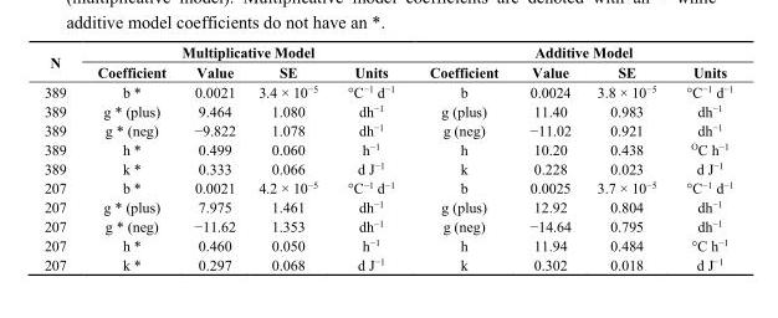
<table><thead><tr><td rowspan="2">N</td><td colspan="4">Multiplicative Model</td><td colspan="4">Additive Model</td></tr><tr><td>Coefficient</td><td>Value</td><td>SE</td><td>Units</td><td>Coefficient</td><td>Value</td><td>SE</td><td>Units</td></tr></thead><tbody><tr><td>389</td><td>b *</td><td>0.0021</td><td>3.4 × 10<sup>−5</sup></td><td>°C<sup>−1</sup> d<sup>−1</sup></td><td>b</td><td>0.0024</td><td>3.8 × 10<sup>−5</sup></td><td>°C<sup>−1</sup> d<sup>−1</sup></td></tr><tr><td>389</td><td>g * (plus)</td><td>9.464</td><td>1.080</td><td>dh<sup>−1</sup></td><td>g (plus)</td><td>11.40</td><td>0.983</td><td>dh<sup>−1</sup></td></tr><tr><td>389</td><td>g * (neg)</td><td>−9.822</td><td>1.078</td><td>dh<sup>−1</sup></td><td>g (neg)</td><td>−11.02</td><td>0.921</td><td>dh<sup>−1</sup></td></tr><tr><td>389</td><td>h *</td><td>0.499</td><td>0.060</td><td>h<sup>−1</sup></td><td>h</td><td>10.20</td><td>0.438</td><td><sup>O</sup>C h<sup>−1</sup></td></tr><tr><td>389</td><td>k *</td><td>0.333</td><td>0.066</td><td>d J<sup>−1</sup></td><td>k</td><td>0.228</td><td>0.023</td><td>d J<sup>−1</sup></td></tr><tr><td>207</td><td>b *</td><td>0.0021</td><td>4.2 × 10<sup>−5</sup></td><td>°C<sup>−1</sup> d<sup>−1</sup></td><td>b</td><td>0.0025</td><td>3.7 × 10<sup>−5</sup></td><td>°C<sup>−1</sup> d<sup>−1</sup></td></tr><tr><td>207</td><td>g * (plus)</td><td>7.975</td><td>1.461</td><td>dh<sup>−1</sup></td><td>g (plus)</td><td>12.92</td><td>0.804</td><td>dh<sup>−1</sup></td></tr><tr><td>207</td><td>g * (neg)</td><td>−11.62</td><td>1.353</td><td>dh<sup>−1</sup></td><td>g (neg)</td><td>−14.64</td><td>0.795</td><td>dh<sup>−1</sup></td></tr><tr><td>207</td><td>h *</td><td>0.460</td><td>0.050</td><td>h<sup>−1</sup></td><td>h</td><td>11.94</td><td>0.484</td><td>°C h<sup>−1</sup></td></tr><tr><td>207</td><td>k *</td><td>0.297</td><td>0.068</td><td>d J<sup>−1</sup></td><td>k</td><td>0.302</td><td>0.018</td><td>d J<sup>−1</sup></td></tr></tbody></table>